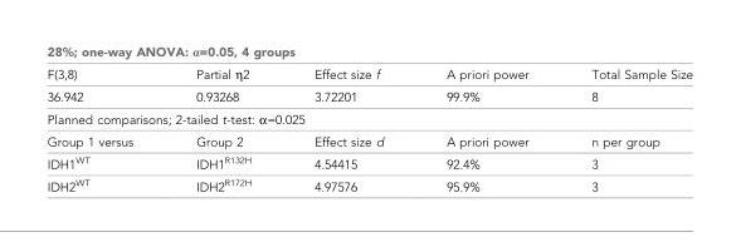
<table><thead><tr><td colspan="5">28%; one-way ANOVA: α=0.05, 4 groups</td></tr><tr><td>F(3,8)</td><td>Partial η2</td><td>Effect size f</td><td>A priori power</td><td>Total Sample Size</td></tr></thead><tbody><tr><td>36.942</td><td>0.93268</td><td>3.72201</td><td>99.9%</td><td>8</td></tr><tr><td colspan="5">Planned comparisons; 2-tailed t-test: α=0.025</td></tr><tr><td>Group 1 versus</td><td>Group 2</td><td>Effect size d</td><td>A priori power</td><td>n per group</td></tr><tr><td>IDH1<sup>WT</sup></td><td>IDH1<sup>R132H</sup></td><td>4.54415</td><td>92.4%</td><td>3</td></tr><tr><td>IDH2<sup>WT</sup></td><td>IDH2<sup>R172H</sup></td><td>4.97576</td><td>95.9%</td><td>3</td></tr></tbody></table>